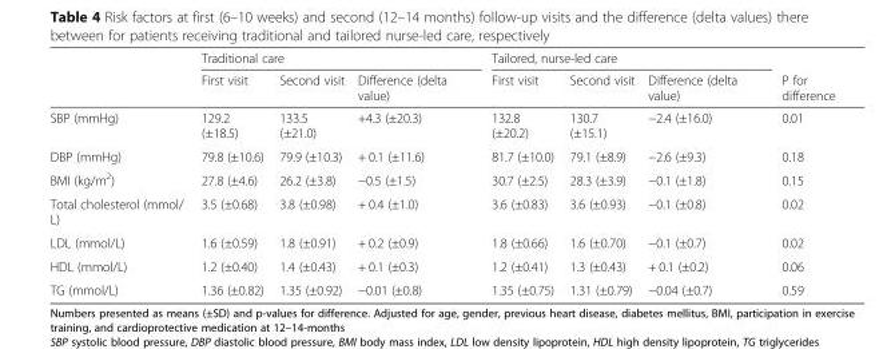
<table><thead><tr><td rowspan="2"></td><td colspan="3">Traditional care</td><td colspan="3">Tailored, nurse-led care</td><td rowspan="2">P for difference</td></tr><tr><td>First visit</td><td>Second visit</td><td>Difference (delta value)</td><td>First visit</td><td>Second visit</td><td>Difference (delta value)</td></tr></thead><tbody><tr><td>SBP (mmHg)</td><td>129.2 (±18.5)</td><td>133.5 (±21.0)</td><td>+4.3 (±20.3)</td><td>132.8 (±20.2)</td><td>130.7 (±15.1)</td><td>−2.4 (±16.0)</td><td>0.01</td></tr><tr><td>DBP (mmHg)</td><td>79.8 (±10.6)</td><td>79.9 (±10.3)</td><td>+ 0.1 (±11.6)</td><td>81.7 (±10.0)</td><td>79.1 (±8.9)</td><td>−2.6 (±9.3)</td><td>0.18</td></tr><tr><td>BMI (kg/m<sup>2</sup>)</td><td>27.8 (±4.6)</td><td>26.2 (±3.8)</td><td>−0.5 (±1.5)</td><td>30.7 (±2.5)</td><td>28.3 (±3.9)</td><td>−0.1 (±1.8)</td><td>0.15</td></tr><tr><td>Total cholesterol (mmol/ L)</td><td>3.5 (±0.68)</td><td>3.8 (±0.98)</td><td>+ 0.4 (±1.0)</td><td>3.6 (±0.83)</td><td>3.6 (±0.93)</td><td>−0.1 (±0.8)</td><td>0.02</td></tr><tr><td>LDL (mmol/L)</td><td>1.6 (±0.59)</td><td>1.8 (±0.91)</td><td>+ 0.2 (±0.9)</td><td>1.8 (±0.66)</td><td>1.6 (±0.70)</td><td>−0.1 (±0.7)</td><td>0.02</td></tr><tr><td>HDL (mmol/L)</td><td>1.2 (±0.40)</td><td>1.4 (±0.43)</td><td>+ 0.1 (±0.3)</td><td>1.2 (±0.41)</td><td>1.3 (±0.43)</td><td>+ 0.1 (±0.2)</td><td>0.06</td></tr><tr><td>TG (mmol/L)</td><td>1.36 (±0.82)</td><td>1.35 (±0.92)</td><td>−0.01 (±0.8)</td><td>1.35 (±0.75)</td><td>1.31 (±0.79)</td><td>−0.04 (±0.7)</td><td>0.59</td></tr></tbody></table>